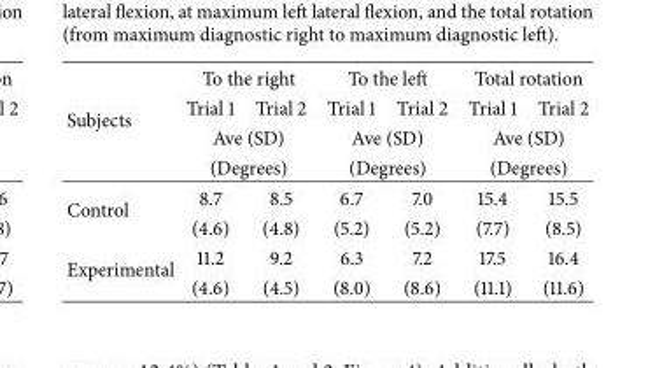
<table><thead><tr><td rowspan="4">Subjects</td><td colspan="2">To the right</td><td colspan="2">To the left</td><td colspan="2">Total rotation</td></tr><tr><td>Trial 1</td><td>Trial 2</td><td>Trial 1</td><td>Trial 2</td><td>Trial 1</td><td>Trial 2</td></tr><tr><td rowspan="2" colspan="2">Ave (SD) (Degrees)</td><td rowspan="2" colspan="2">Ave (SD) (Degrees)</td><td rowspan="2" colspan="2">Ave (SD) (Degrees)</td></tr><tr></tr></thead><tbody><tr><td rowspan="2">Control</td><td>8.7</td><td>8.5</td><td>6.7</td><td>7.0</td><td>15.4</td><td>15.5</td></tr><tr><td>(4.6)</td><td>(4.8)</td><td>(5.2)</td><td>(5.2)</td><td>(7.7)</td><td>(8.5)</td></tr><tr><td rowspan="2">Experimental</td><td>11.2</td><td>9.2</td><td>6.3</td><td>7.2</td><td>17.5</td><td>16.4</td></tr><tr><td>(4.6)</td><td>(4.5)</td><td>(8.0)</td><td>(8.6)</td><td>(11.1)</td><td>(11.6)</td></tr></tbody></table>